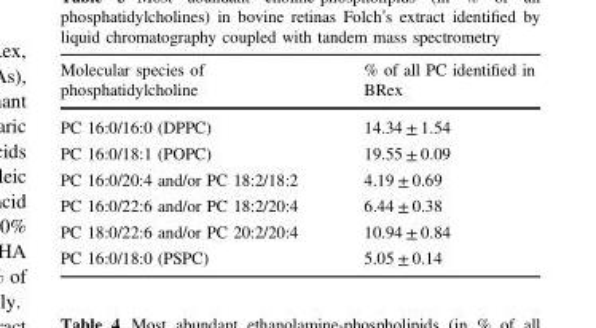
<table><thead><tr><td>Molecular species of phosphatidylcholine</td><td>% of all PC identified in BRex</td></tr></thead><tbody><tr><td>PC 16:0/16:0 (DPPC)</td><td>14.34 ± 1.54</td></tr><tr><td>PC 16:0/18:1 (POPC)</td><td>19.55 ± 0.09</td></tr><tr><td>PC 16:0/20:4 and/or PC 18:2/18:2</td><td>4.19 ± 0.69</td></tr><tr><td>PC 16:0/22:6 and/or PC 18:2/20:4</td><td>6.44 ± 0.38</td></tr><tr><td>PC 18:0/22:6 and/or PC 20:2/20:4</td><td>10.94 ± 0.84</td></tr><tr><td>PC 16:0/18:0 (PSPC)</td><td>5.05 ± 0.14</td></tr></tbody></table>